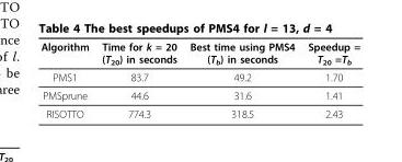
<table><thead><tr><td>Algorithm</td><td>Time for k = 20 (T<sub>20</sub>) in seconds</td><td>Best time using PMS4 (T<sub>b</sub>) in seconds</td><td>Speedup = T<sub>20</sub> =T<sub>b</sub></td></tr></thead><tbody><tr><td>PMS1</td><td>83.7</td><td>49.2</td><td>1.70</td></tr><tr><td>PMSprune</td><td>44.6</td><td>31.6</td><td>1.41</td></tr><tr><td>RISOTTO</td><td>774.3</td><td>318.5</td><td>2.43</td></tr></tbody></table>